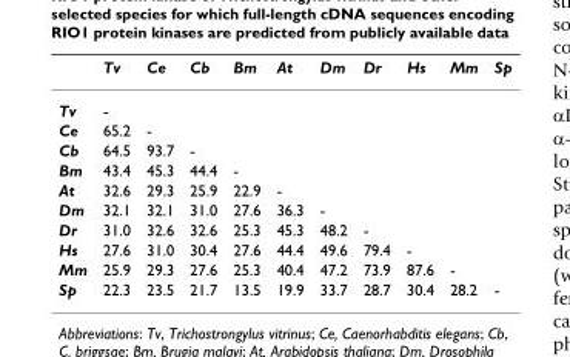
<table><thead><tr><td></td><td>Tv</td><td>Ce</td><td>Cb</td><td>Bm</td><td>At</td><td>Dm</td><td>Dr</td><td>Hs</td><td>Mm</td><td>Sp</td></tr></thead><tbody><tr><td>Tv</td><td>-</td><td></td><td></td><td></td><td></td><td></td><td></td><td></td><td></td><td></td></tr><tr><td>Ce</td><td>65.2</td><td>-</td><td></td><td></td><td></td><td></td><td></td><td></td><td></td><td></td></tr><tr><td>Cb</td><td>64.5</td><td>93.7</td><td>-</td><td></td><td></td><td></td><td></td><td></td><td></td><td></td></tr><tr><td>Bm</td><td>43.4</td><td>45.3</td><td>44.4</td><td>-</td><td></td><td></td><td></td><td></td><td></td><td></td></tr><tr><td>At</td><td>32.6</td><td>29.3</td><td>25.9</td><td>22.9</td><td>-</td><td></td><td></td><td></td><td></td><td></td></tr><tr><td>Dm</td><td>32.1</td><td>32.1</td><td>31.0</td><td>27.6</td><td>36.3</td><td>-</td><td></td><td></td><td></td><td></td></tr><tr><td>Dr</td><td>31.0</td><td>32.6</td><td>32.6</td><td>25.3</td><td>45.3</td><td>48.2</td><td>-</td><td></td><td></td><td></td></tr><tr><td>Hs</td><td>27.6</td><td>31.0</td><td>30.4</td><td>27.6</td><td>44.4</td><td>49.6</td><td>79.4</td><td>-</td><td></td><td></td></tr><tr><td>Mm</td><td>25.9</td><td>29.3</td><td>27.6</td><td>25.3</td><td>40.4</td><td>47.2</td><td>73.9</td><td>87.6</td><td>-</td><td></td></tr><tr><td>Sp</td><td>22.3</td><td>23.5</td><td>21.7</td><td>13.5</td><td>19.9</td><td>33.7</td><td>28.7</td><td>30.4</td><td>28.2</td><td>-</td></tr></tbody></table>